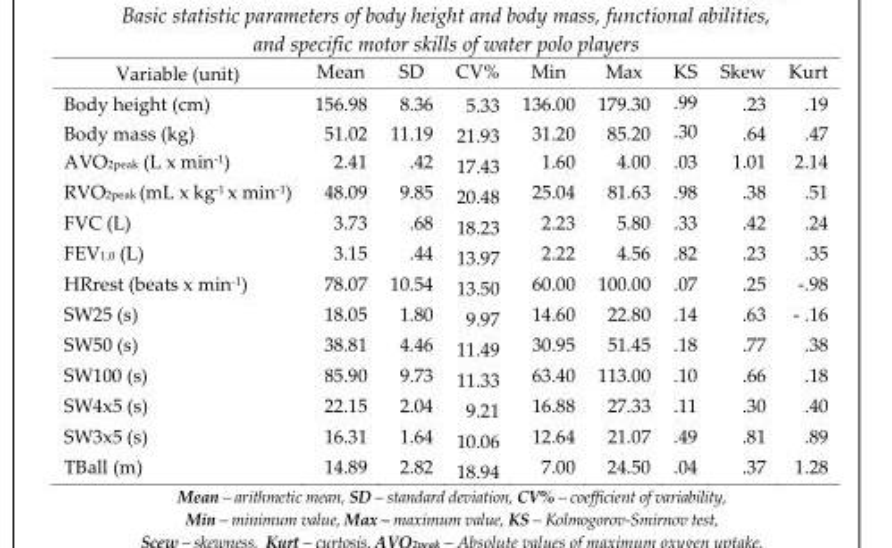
<table><thead><tr><td>Variable (unit)</td><td>Mean</td><td>SD</td><td>CV%</td><td>Min</td><td>Max</td><td>KS</td><td>Skew</td><td>Kurt</td></tr></thead><tbody><tr><td>Body height (cm)</td><td>156.98</td><td>8.36</td><td>5.33</td><td>136.00</td><td>179.30</td><td>.99</td><td>.23</td><td>.19</td></tr><tr><td>Body mass (kg)</td><td>51.02</td><td>11.19</td><td>21.93</td><td>31.20</td><td>85.20</td><td>.30</td><td>.64</td><td>.47</td></tr><tr><td>AVO<sub>2peak</sub> (L x min<sup>-1</sup>)</td><td>2.41</td><td>.42</td><td>17.43</td><td>1.60</td><td>4.00</td><td>.03</td><td>1.01</td><td>2.14</td></tr><tr><td>RVO2peak (mL x kg-1 x min-1)</td><td>48.09</td><td>9.85</td><td>20.48</td><td>25.04</td><td>81.63</td><td>.98</td><td>.38</td><td>.51</td></tr><tr><td>FVC (L)</td><td>3.73</td><td>.68</td><td>18.23</td><td>2.23</td><td>5.80</td><td>.33</td><td>.42</td><td>.24</td></tr><tr><td>FEV<sub>1.0</sub> (L)</td><td>3.15</td><td>.44</td><td>13.97</td><td>2.22</td><td>4.56</td><td>.82</td><td>.23</td><td>.35</td></tr><tr><td>HRrest (beats x min-1)</td><td>78.07</td><td>10.54</td><td>13.50</td><td>60.00</td><td>100.00</td><td>.07</td><td>.25</td><td>-.98</td></tr><tr><td>SW25 (s)</td><td>18.05</td><td>1.80</td><td>9.97</td><td>14.60</td><td>22.80</td><td>.14</td><td>.63</td><td>- .16</td></tr><tr><td>SW50 (s)</td><td>38.81</td><td>4.46</td><td>11.49</td><td>30.95</td><td>51.45</td><td>.18</td><td>.77</td><td>.38</td></tr><tr><td>SW100 (s)</td><td>85.90</td><td>9.73</td><td>11.33</td><td>63.40</td><td>113.00</td><td>.10</td><td>.66</td><td>.18</td></tr><tr><td>SW4x5 (s)</td><td>22.15</td><td>2.04</td><td>9.21</td><td>16.88</td><td>27.33</td><td>.11</td><td>.30</td><td>.40</td></tr><tr><td>SW3x5 (s)</td><td>16.31</td><td>1.64</td><td>10.06</td><td>12.64</td><td>21.07</td><td>.49</td><td>.81</td><td>.89</td></tr><tr><td>TBall (m)</td><td>14.89</td><td>2.82</td><td>18.94</td><td>7.00</td><td>24.50</td><td>.04</td><td>.37</td><td>1.28</td></tr></tbody></table>